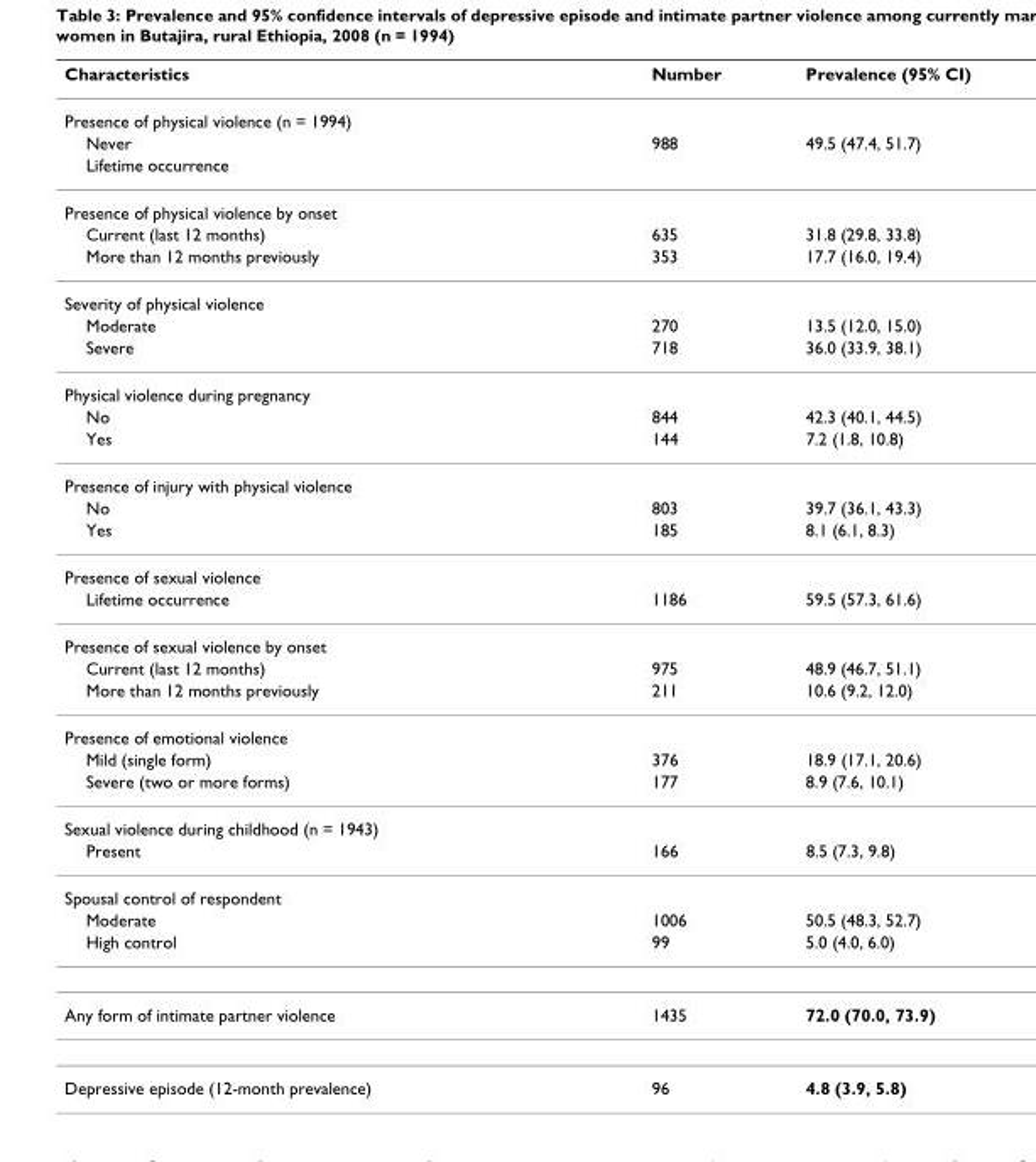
<table><thead><tr><td>Characteristics</td><td>Number</td><td>Prevalence (95% CI)</td></tr></thead><tbody><tr><td colspan="3">Presence of physical violence (n = 1994)</td></tr><tr><td>Never</td><td>988</td><td>49.5 (47.4, 51.7)</td></tr><tr><td colspan="3">Lifetime occurrence</td></tr><tr><td colspan="3">Presence of physical violence by onset</td></tr><tr><td>Current (last 12 months)</td><td>635</td><td>31.8 (29.8, 33.8)</td></tr><tr><td>More than 12 months previously</td><td>353</td><td>17.7 (16.0, 19.4)</td></tr><tr><td colspan="3">Severity of physical violence</td></tr><tr><td>Moderate</td><td>270</td><td>13.5 (12.0, 15.0)</td></tr><tr><td>Severe</td><td>718</td><td>36.0 (33.9, 38.1)</td></tr><tr><td colspan="3">Physical violence during pregnancy</td></tr><tr><td>No</td><td>844</td><td>42.3 (40.1, 44.5)</td></tr><tr><td>Yes</td><td>144</td><td>7.2 (1.8, 10.8)</td></tr><tr><td colspan="3">Presence of injury with physical violence</td></tr><tr><td>No</td><td>803</td><td>39.7 (36.1, 43.3)</td></tr><tr><td>Yes</td><td>185</td><td>8.1 (6.1, 8.3)</td></tr><tr><td colspan="3">Presence of sexual violence</td></tr><tr><td>Lifetime occurrence</td><td>1186</td><td>59.5 (57.3, 61.6)</td></tr><tr><td colspan="3">Presence of sexual violence by onset</td></tr><tr><td>Current (last 12 months)</td><td>975</td><td>48.9 (46.7, 51.1)</td></tr><tr><td>More than 12 months previously</td><td>211</td><td>10.6 (9.2, 12.0)</td></tr><tr><td colspan="3">Presence of emotional violence</td></tr><tr><td>Mild (single form)</td><td>376</td><td>18.9 (17.1, 20.6)</td></tr><tr><td>Severe (two or more forms)</td><td>177</td><td>8.9 (7.6, 10.1)</td></tr><tr><td colspan="3">Sexual violence during childhood (n = 1943)</td></tr><tr><td>Present</td><td>166</td><td>8.5 (7.3, 9.8)</td></tr><tr><td colspan="3">Spousal control of respondent</td></tr><tr><td>Moderate</td><td>1006</td><td>50.5 (48.3, 52.7)</td></tr><tr><td>High control</td><td>99</td><td>5.0 (4.0, 6.0)</td></tr><tr><td>Any form of intimate partner violence</td><td>1435</td><td>72.0 (70.0, 73.9)</td></tr><tr><td>Depressive episode (12-month prevalence)</td><td>96</td><td>4.8 (3.9, 5.8)</td></tr></tbody></table>